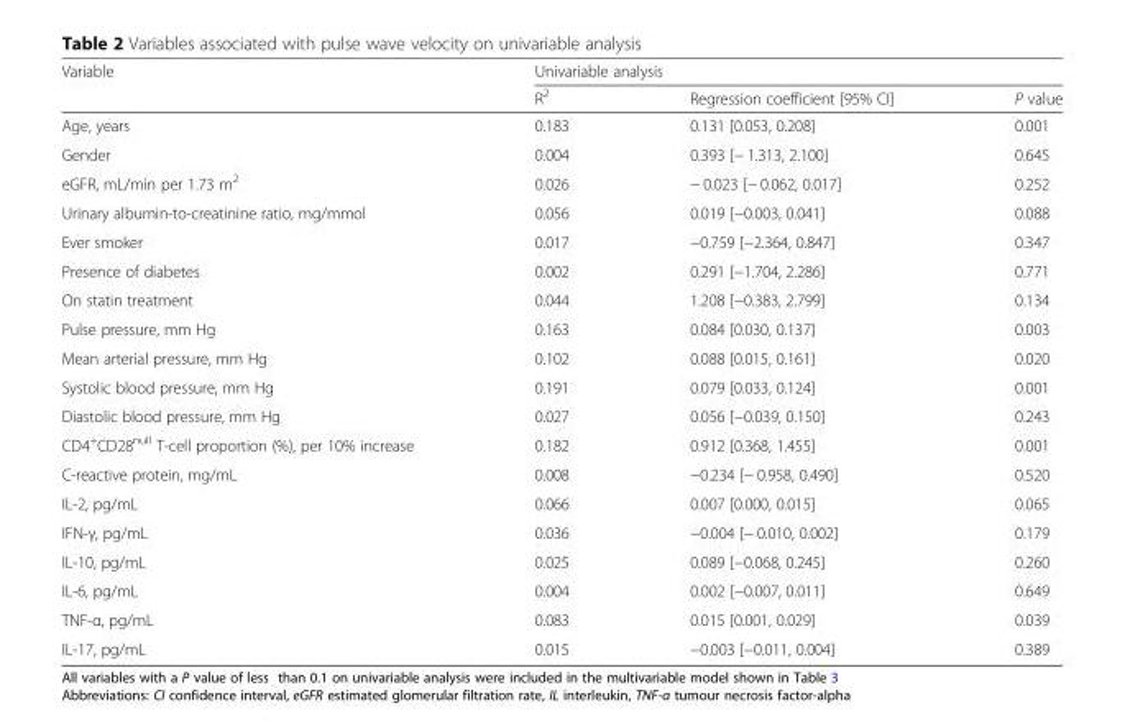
<table><thead><tr><td rowspan="2">Variable</td><td colspan="3">Univariable analysis</td></tr><tr><td>R<sup>2</sup></td><td>Regression coefficient [95% CI]</td><td>P value</td></tr></thead><tbody><tr><td>Age, years</td><td>0.183</td><td>0.131 [0.053, 0.208]</td><td>0.001</td></tr><tr><td>Gender</td><td>0.004</td><td>0.393 [− 1.313, 2.100]</td><td>0.645</td></tr><tr><td>eGFR, mL/min per 1.73 m<sup>2</sup></td><td>0.026</td><td>− 0.023 [− 0.062, 0.017]</td><td>0.252</td></tr><tr><td>Urinary albumin-to-creatinine ratio, mg/mmol</td><td>0.056</td><td>0.019 [−0.003, 0.041]</td><td>0.088</td></tr><tr><td>Ever smoker</td><td>0.017</td><td>−0.759 [−2.364, 0.847]</td><td>0.347</td></tr><tr><td>Presence of diabetes</td><td>0.002</td><td>0.291 [−1.704, 2.286]</td><td>0.771</td></tr><tr><td>On statin treatment</td><td>0.044</td><td>1.208 [−0.383, 2.799]</td><td>0.134</td></tr><tr><td>Pulse pressure, mm Hg</td><td>0.163</td><td>0.084 [0.030, 0.137]</td><td>0.003</td></tr><tr><td>Mean arterial pressure, mm Hg</td><td>0.102</td><td>0.088 [0.015, 0.161]</td><td>0.020</td></tr><tr><td>Systolic blood pressure, mm Hg</td><td>0.191</td><td>0.079 [0.033, 0.124]</td><td>0.001</td></tr><tr><td>Diastolic blood pressure, mm Hg</td><td>0.027</td><td>0.056 [−0.039, 0.150]</td><td>0.243</td></tr><tr><td>CD4<sup>+</sup>CD28<sup>null</sup> T-cell proportion (%), per 10% increase</td><td>0.182</td><td>0.912 [0.368, 1.455]</td><td>0.001</td></tr><tr><td>C-reactive protein, mg/mL</td><td>0.008</td><td>−0.234 [− 0.958, 0.490]</td><td>0.520</td></tr><tr><td>IL-2, pg/mL</td><td>0.066</td><td>0.007 [0.000, 0.015]</td><td>0.065</td></tr><tr><td>IFN-γ, pg/mL</td><td>0.036</td><td>−0.004 [− 0.010, 0.002]</td><td>0.179</td></tr><tr><td>IL-10, pg/mL</td><td>0.025</td><td>0.089 [−0.068, 0.245]</td><td>0.260</td></tr><tr><td>IL-6, pg/mL</td><td>0.004</td><td>0.002 [−0.007, 0.011]</td><td>0.649</td></tr><tr><td>TNF-α, pg/mL</td><td>0.083</td><td>0.015 [0.001, 0.029]</td><td>0.039</td></tr><tr><td>IL-17, pg/mL</td><td>0.015</td><td>−0.003 [−0.011, 0.004]</td><td>0.389</td></tr></tbody></table>